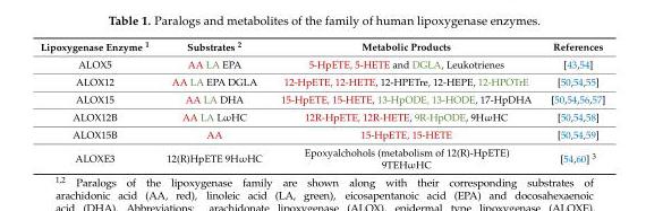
<table><thead><tr><td>Lipoxygenase Enzyme <sup>1</sup></td><td>Substrates <sup>2</sup></td><td>Metabolic Products</td><td>References</td></tr></thead><tbody><tr><td>ALOX5</td><td>AA LA EPA</td><td>5-HpETE, 5-HETE and DGLA, Leukotrienes</td><td>[43,54]</td></tr><tr><td>ALOX12</td><td>AA LA EPA DGLA</td><td>12-HpETE, 12-HETE, 12-HPETre, 12-HEPE, 12-HPOTrE</td><td>[50,54,55]</td></tr><tr><td>ALOX15</td><td>AA LA DHA</td><td>15-HpETE, 15-HETE, 13-HpODE, 13-HODE, 17-HpDHA</td><td>[50,54,56,57]</td></tr><tr><td>ALOX12B</td><td>AA LA LωHC</td><td>12R-HpETE, 12R-HETE, 9R-HpODE, 9HωHC</td><td>[50,54,58]</td></tr><tr><td>ALOX15B</td><td>AA</td><td>15-HpETE, 15-HETE</td><td>[50,54,59]</td></tr><tr><td>ALOXE3</td><td>12(R)HpETE 9HωHC</td><td>Epoxyalchohols (metabolism of 12(R)-HpETE) 9TEHωHC</td><td>[54,60] <sup>3</sup></td></tr></tbody></table>